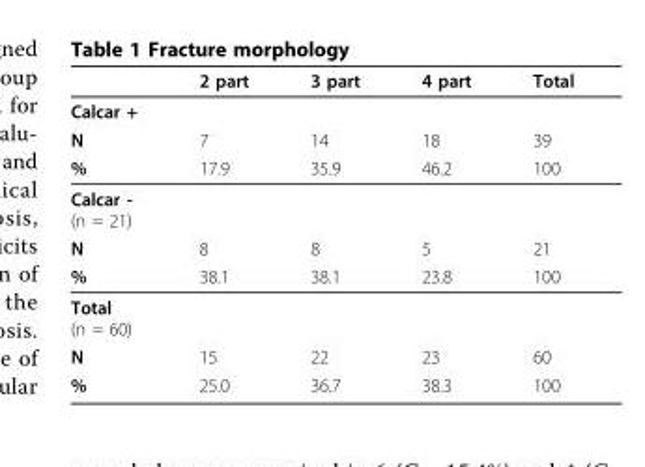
<table><thead><tr><td></td><td>2 part</td><td>3 part</td><td>4 part</td><td>Total</td></tr></thead><tbody><tr><td colspan="5">Calcar +</td></tr><tr><td>N</td><td>7</td><td>14</td><td>18</td><td>39</td></tr><tr><td>%</td><td>17.9</td><td>35.9</td><td>46.2</td><td>100</td></tr><tr><td colspan="5">Calcar - (n = 21)</td></tr><tr><td>N</td><td>8</td><td>8</td><td>5</td><td>21</td></tr><tr><td>%</td><td>38.1</td><td>38.1</td><td>23.8</td><td>100</td></tr><tr><td colspan="5">Total (n = 60)</td></tr><tr><td>N</td><td>15</td><td>22</td><td>23</td><td>60</td></tr><tr><td>%</td><td>25.0</td><td>36.7</td><td>38.3</td><td>100</td></tr></tbody></table>